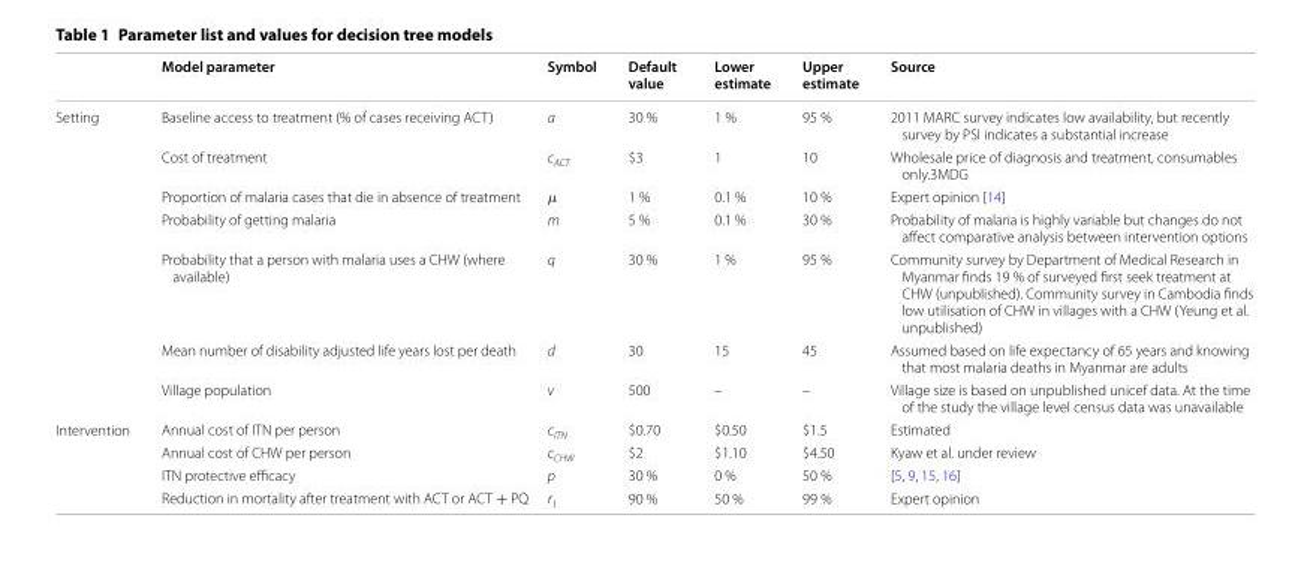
<table><thead><tr><td></td><td>Model parameter</td><td>Symbol</td><td>Default value</td><td>Lower estimate</td><td>Upper estimate</td><td>Source</td></tr></thead><tbody><tr><td rowspan="7">Setting</td><td>Baseline access to treatment (% of cases receiving ACT)</td><td>a</td><td>30 %</td><td>1 %</td><td>95 %</td><td>2011 MARC survey indicates low availability, but recently survey by PSI indicates a substantial increase</td></tr><tr><td>Cost of treatment</td><td>c<sub>ACT</sub></td><td>$3</td><td>1</td><td>10</td><td>Wholesale price of diagnosis and treatment, consumables only.3MDG</td></tr><tr><td>Proportion of malaria cases that die in absence of treatment</td><td>μ</td><td>1 %</td><td>0.1 %</td><td>10 %</td><td>Expert opinion [14]</td></tr><tr><td>Probability of getting malaria</td><td>m</td><td>5 %</td><td>0.1 %</td><td>30 %</td><td>Probability of malaria is highly variable but changes do not affect comparative analysis between intervention options</td></tr><tr><td>Probability that a person with malaria uses a CHW (where available)</td><td>q</td><td>30 %</td><td>1 %</td><td>95 %</td><td>Community survey by Department of Medical Research in Myanmar finds 19 % of surveyed first seek treatment at CHW (unpublished). Community survey in Cambodia finds low utilisation of CHW in villages with a CHW (Yeung et al. unpublished)</td></tr><tr><td>Mean number of disability adjusted life years lost per death</td><td>d</td><td>30</td><td>15</td><td>45</td><td>Assumed based on life expectancy of 65 years and knowing that most malaria deaths in Myanmar are adults</td></tr><tr><td>Village population</td><td>v</td><td>500</td><td>–</td><td>–</td><td>Village size is based on unpublished unicef data. At the time of the study the village level census data was unavailable</td></tr><tr><td rowspan="4">Intervention</td><td>Annual cost of ITN per person</td><td>c<sub>ITN</sub></td><td>$0.70</td><td>$0.50</td><td>$1.5</td><td>Estimated</td></tr><tr><td>Annual cost of CHW per person</td><td>c<sub>CHW</sub></td><td>$2</td><td>$1.10</td><td>$4.50</td><td>Kyaw et al. under review</td></tr><tr><td>ITN protective efficacy</td><td>p</td><td>30 %</td><td>0 %</td><td>50 %</td><td>[5, 9, 15, 16]</td></tr><tr><td>Reduction in mortality after treatment with ACT or ACT + PQ</td><td>r<sub>1</sub></td><td>90 %</td><td>50 %</td><td>99 %</td><td>Expert opinion</td></tr></tbody></table>